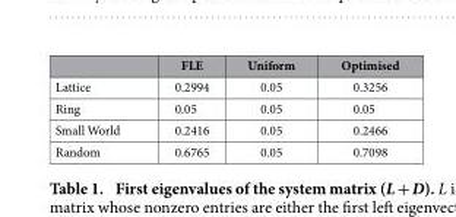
<table><thead><tr><td></td><td>FLE</td><td>Uniform</td><td>Optimised</td></tr></thead><tbody><tr><td>Lattice</td><td>0.2994</td><td>0.05</td><td>0.3256</td></tr><tr><td>Ring</td><td>0.05</td><td>0.05</td><td>0.05</td></tr><tr><td>Small World</td><td>0.2416</td><td>0.05</td><td>0.2466</td></tr><tr><td>Random</td><td>0.6765</td><td>0.05</td><td>0.7098</td></tr></tbody></table>